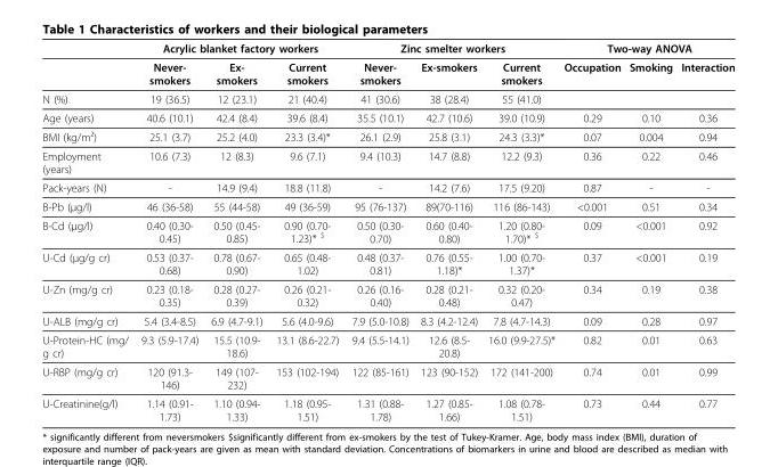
<table><thead><tr><td rowspan="2"></td><td colspan="3">Acrylic blanket factory workers</td><td colspan="3">Zinc smelter workers</td><td colspan="3">Two-way ANOVA</td></tr><tr><td>Never- smokers</td><td>Ex- smokers</td><td>Current smokers</td><td>Never- smokers</td><td>Ex-smokers</td><td>Current smokers</td><td>Occupation</td><td>Smoking</td><td>Interaction</td></tr></thead><tbody><tr><td>N (%)</td><td>19 (36.5)</td><td>12 (23.1)</td><td>21 (40.4)</td><td>41 (30.6)</td><td>38 (28.4)</td><td>55 (41.0)</td><td></td><td></td><td></td></tr><tr><td>Age (years)</td><td>40.6 (10.1)</td><td>42.4 (8.4)</td><td>39.6 (8.4)</td><td>35.5 (10.1)</td><td>42.7 (10.6)</td><td>39.0 (10.9)</td><td>0.29</td><td>0.10</td><td>0.36</td></tr><tr><td>BMI (kg/m²)</td><td>25.1 (3.7)</td><td>25.2 (4.0)</td><td>23.3 (3.4)*</td><td>26.1 (2.9)</td><td>25.8 (3.1)</td><td>24.3 (3.3)*</td><td>0.07</td><td>0.004</td><td>0.94</td></tr><tr><td>Employment (years)</td><td>10.6 (7.3)</td><td>12 (8.3)</td><td>9.6 (7.1)</td><td>9.4 (10.3)</td><td>14.7 (8.8)</td><td>12.2 (9.3)</td><td>0.36</td><td>0.22</td><td>0.46</td></tr><tr><td>Pack-years (N)</td><td>-</td><td>14.9 (9.4)</td><td>18.8 (11.8)</td><td>-</td><td>14.2 (7.6)</td><td>17.5 (9.20)</td><td>0.87</td><td>-</td><td>-</td></tr><tr><td>B-Pb (μg/l)</td><td>46 (36-58)</td><td>55 (44-58)</td><td>49 (36-59)</td><td>95 (76-137)</td><td>89(70-116)</td><td>116 (86-143)</td><td>&lt;0.001</td><td>0.51</td><td>0.34</td></tr><tr><td>B-Cd (μg/l)</td><td>0.40 (0.30- 0.45)</td><td>0.50 (0.45- 0.85)</td><td>0.90 (0.70- 1.23)* <sup>$</sup></td><td>0.50 (0.30- 0.70)</td><td>0.60 (0.40- 0.80)</td><td>1.20 (0.80- 1.70)* <sup>$</sup></td><td>0.09</td><td>&lt;0.001</td><td>0.92</td></tr><tr><td>U-Cd (μg/g cr)</td><td>0.53 (0.37- 0.68)</td><td>0.78 (0.67- 0.90)</td><td>0.65 (0.48- 1.02)</td><td>0.48 (0.37- 0.81)</td><td>0.76 (0.55- 1.18)*</td><td>1.00 (0.70- 1.37)*</td><td>0.37</td><td>&lt;0.001</td><td>0.19</td></tr><tr><td>U-Zn (mg/g cr)</td><td>0.23 (0.18- 0.35)</td><td>0.28 (0.27- 0.39)</td><td>0.26 (0.21- 0.32)</td><td>0.26 (0.16- 0.40)</td><td>0.28 (0.21- 0.48)</td><td>0.32 (0.20- 0.47)</td><td>0.34</td><td>0.19</td><td>0.38</td></tr><tr><td>U-ALB (mg/g cr)</td><td>5.4 (3.4-8.5)</td><td>6.9 (4.7-9.1)</td><td>5.6 (4.0-9.6)</td><td>7.9 (5.0-10.8)</td><td>8.3 (4.2-12.4)</td><td>7.8 (4.7-14.3)</td><td>0.09</td><td>0.28</td><td>0.97</td></tr><tr><td>U-Protein-HC (mg/ g cr)</td><td>9.3 (5.9-17.4)</td><td>15.5 (10.9- 18.6)</td><td>13.1 (8.6-22.7)</td><td>9.4 (5.5-14.1)</td><td>12.6 (8.5- 20.8)</td><td>16.0 (9.9-27.5)*</td><td>0.82</td><td>0.01</td><td>0.63</td></tr><tr><td>U-RBP (mg/g cr)</td><td>120 (91.3- 146)</td><td>149 (107- 232)</td><td>153 (102-194)</td><td>122 (85-161)</td><td>123 (90-152)</td><td>172 (141-200)</td><td>0.74</td><td>0.01</td><td>0.99</td></tr><tr><td>U-Creatinine(g/l)</td><td>1.14 (0.91- 1.73)</td><td>1.10 (0.94- 1.33)</td><td>1.18 (0.95- 1.51)</td><td>1.31 (0.88- 1.78)</td><td>1.27 (0.85- 1.66)</td><td>1.08 (0.78- 1.51)</td><td>0.73</td><td>0.44</td><td>0.77</td></tr></tbody></table>